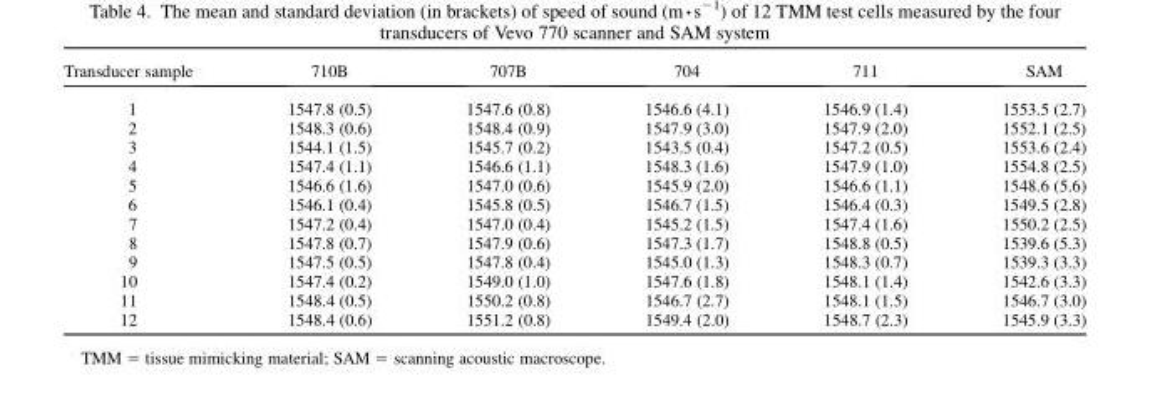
<table><thead><tr><td>Transducer sample</td><td>710B</td><td>707B</td><td>704</td><td>711</td><td>SAM</td></tr></thead><tbody><tr><td>1</td><td>1547.8 (0.5)</td><td>1547.6 (0.8)</td><td>1546.6 (4.1)</td><td>1546.9 (1.4)</td><td>1553.5 (2.7)</td></tr><tr><td>2</td><td>1548.3 (0.6)</td><td>1548.4 (0.9)</td><td>1547.9 (3.0)</td><td>1547.9 (2.0)</td><td>1552.1 (2.5)</td></tr><tr><td>3</td><td>1544.1 (1.5)</td><td>1545.7 (0.2)</td><td>1543.5 (0.4)</td><td>1547.2 (0.5)</td><td>1553.6 (2.4)</td></tr><tr><td>4</td><td>1547.4 (1.1)</td><td>1546.6 (1.1)</td><td>1548.3 (1.6)</td><td>1547.9 (1.0)</td><td>1554.8 (2.5)</td></tr><tr><td>5</td><td>1546.6 (1.6)</td><td>1547.0 (0.6)</td><td>1545.9 (2.0)</td><td>1546.6 (1.1)</td><td>1548.6 (5.6)</td></tr><tr><td>6</td><td>1546.1 (0.4)</td><td>1545.8 (0.5)</td><td>1546.7 (1.5)</td><td>1546.4 (0.3)</td><td>1549.5 (2.8)</td></tr><tr><td>7</td><td>1547.2 (0.4)</td><td>1547.0 (0.4)</td><td>1545.2 (1.5)</td><td>1547.4 (1.6)</td><td>1550.2 (2.5)</td></tr><tr><td>8</td><td>1547.8 (0.7)</td><td>1547.9 (0.6)</td><td>1547.3 (1.7)</td><td>1548.8 (0.5)</td><td>1539.6 (5.3)</td></tr><tr><td>9</td><td>1547.5 (0.5)</td><td>1547.8 (0.4)</td><td>1545.0 (1.3)</td><td>1548.3 (0.7)</td><td>1539.3 (3.3)</td></tr><tr><td>10</td><td>1547.4 (0.2)</td><td>1549.0 (1.0)</td><td>1547.6 (1.8)</td><td>1548.1 (1.4)</td><td>1542.6 (3.3)</td></tr><tr><td>11</td><td>1548.4 (0.5)</td><td>1550.2 (0.8)</td><td>1546.7 (2.7)</td><td>1548.1 (1.5)</td><td>1546.7 (3.0)</td></tr><tr><td>12</td><td>1548.4 (0.6)</td><td>1551.2 (0.8)</td><td>1549.4 (2.0)</td><td>1548.7 (2.3)</td><td>1545.9 (3.3)</td></tr></tbody></table>